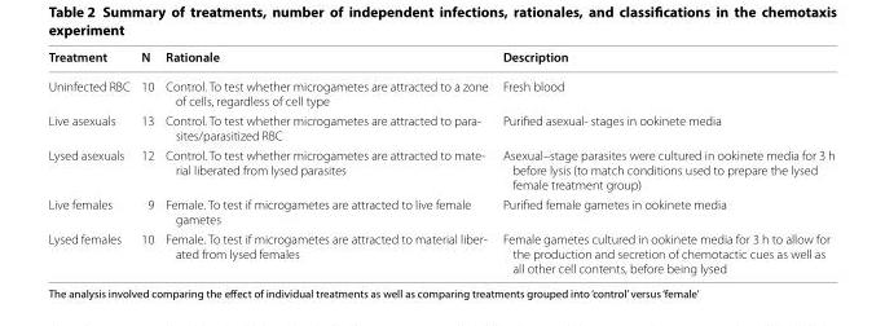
<table><thead><tr><td>Treatment</td><td>N</td><td>Rationale</td><td>Description</td></tr></thead><tbody><tr><td>Uninfected RBC</td><td>10</td><td>Control. To test whether microgametes are attracted to a zone of cells, regardless of cell type</td><td>Fresh blood</td></tr><tr><td>Live asexuals</td><td>13</td><td>Control. To test whether microgametes are attracted to para- sites/parasitized RBC</td><td>Purified asexual- stages in ookinete media</td></tr><tr><td>Lysed asexuals</td><td>12</td><td>Control. To test whether microgametes are attracted to mate- rial liberated from lysed parasites</td><td>Asexual–stage parasites were cultured in ookinete media for 3 h before lysis (to match conditions used to prepare the lysed female treatment group)</td></tr><tr><td>Live females</td><td>9</td><td>Female. To test if microgametes are attracted to live female gametes</td><td>Purified female gametes in ookinete media</td></tr><tr><td>Lysed females</td><td>10</td><td>Female. To test if microgametes are attracted to material liber- ated from lysed females</td><td>Female gametes cultured in ookinete media for 3 h to allow for the production and secretion of chemotactic cues as well as all other cell contents, before being lysed</td></tr></tbody></table>